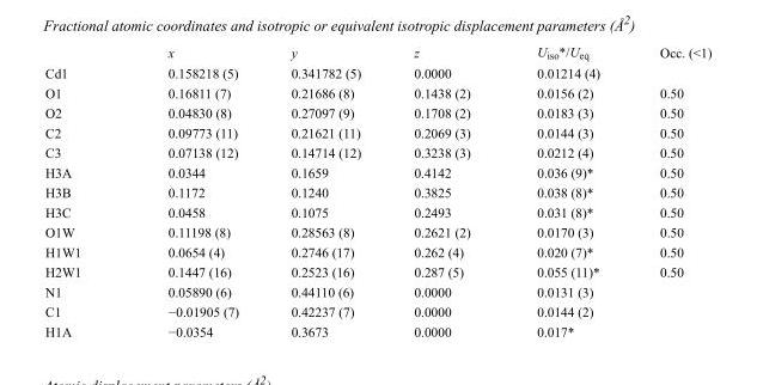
<table><thead><tr><td></td><td>x</td><td>y</td><td>z</td><td>U<sub>iso</sub>*/U<sub>eq</sub></td><td>Occ. (&lt;1)</td></tr></thead><tbody><tr><td>Cd1</td><td>0.158218 (5)</td><td>0.341782 (5)</td><td>0.0000</td><td>0.01214 (4)</td><td></td></tr><tr><td>O1</td><td>0.16811 (7)</td><td>0.21686 (8)</td><td>0.1438 (2)</td><td>0.0156 (2)</td><td>0.50</td></tr><tr><td>O2</td><td>0.04830 (8)</td><td>0.27097 (9)</td><td>0.1708 (2)</td><td>0.0183 (3)</td><td>0.50</td></tr><tr><td>C2</td><td>0.09773 (11)</td><td>0.21621 (11)</td><td>0.2069 (3)</td><td>0.0144 (3)</td><td>0.50</td></tr><tr><td>C3</td><td>0.07138 (12)</td><td>0.14714 (12)</td><td>0.3238 (3)</td><td>0.0212 (4)</td><td>0.50</td></tr><tr><td>H3A</td><td>0.0344</td><td>0.1659</td><td>0.4142</td><td>0.036 (9)*</td><td>0.50</td></tr><tr><td>H3B</td><td>0.1172</td><td>0.1240</td><td>0.3825</td><td>0.038 (8)*</td><td>0.50</td></tr><tr><td>H3C</td><td>0.0458</td><td>0.1075</td><td>0.2493</td><td>0.031 (8)*</td><td>0.50</td></tr><tr><td>O1W</td><td>0.11198 (8)</td><td>0.28563 (8)</td><td>0.2621 (2)</td><td>0.0170 (3)</td><td>0.50</td></tr><tr><td>H1W1</td><td>0.0654 (4)</td><td>0.2746 (17)</td><td>0.262 (4)</td><td>0.020 (7)*</td><td>0.50</td></tr><tr><td>H2W1</td><td>0.1447 (16)</td><td>0.2523 (16)</td><td>0.287 (5)</td><td>0.055 (11)*</td><td>0.50</td></tr><tr><td>N1</td><td>0.05890 (6)</td><td>0.44110 (6)</td><td>0.0000</td><td>0.0131 (3)</td><td></td></tr><tr><td>C1</td><td>−0.01905 (7)</td><td>0.42237 (7)</td><td>0.0000</td><td>0.0144 (2)</td><td></td></tr><tr><td>H1A</td><td>−0.0354</td><td>0.3673</td><td>0.0000</td><td>0.017*</td><td></td></tr></tbody></table>